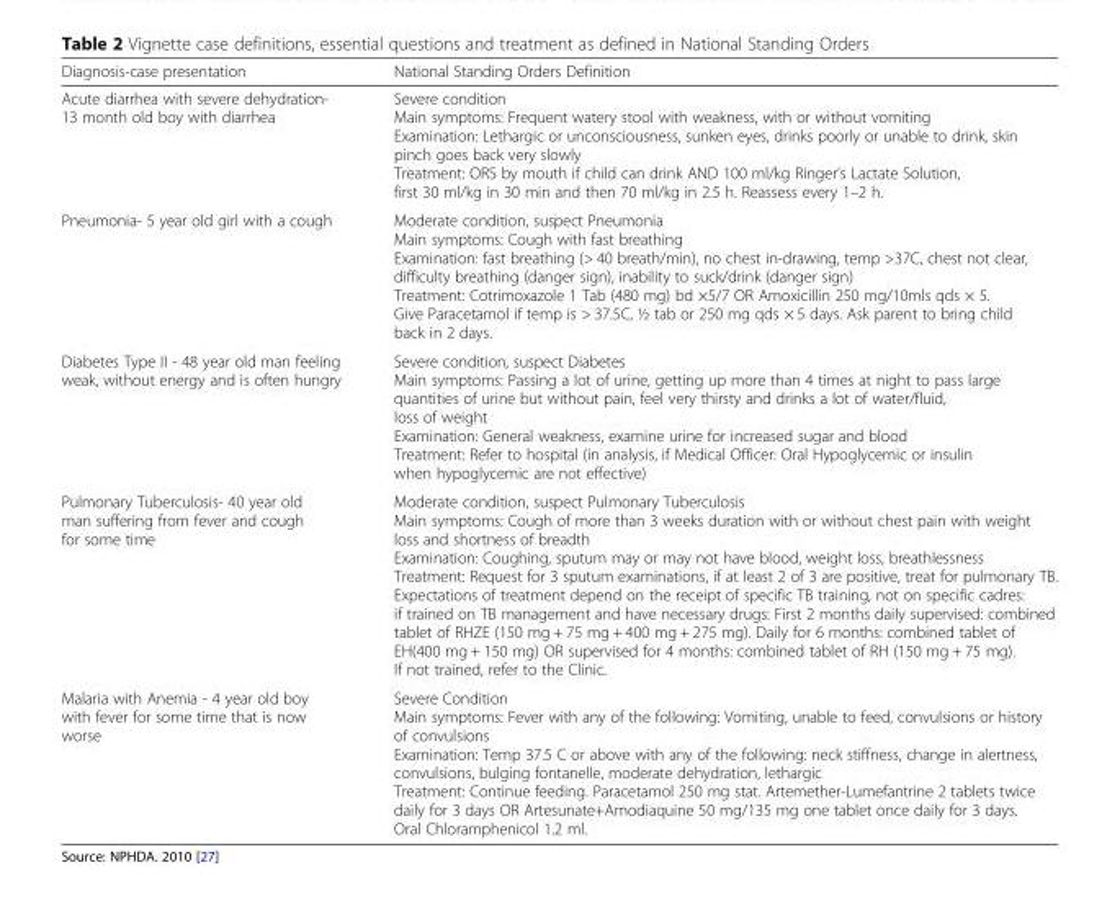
<table><thead><tr><td>Diagnosis-case presentation</td><td>National Standing Orders Definition</td></tr></thead><tbody><tr><td>Acute diarrhea with severe dehydration- 13 month old boy with diarrhea</td><td>Severe condition Main symptoms: Frequent watery stool with weakness, with or without vomiting Examination: Lethargic or unconsciousness, sunken eyes, drinks poorly or unable to drink, skin pinch goes back very slowly Treatment: ORS by mouth if child can drink AND 100 ml/kg Ringer’s Lactate Solution, first 30 ml/kg in 30 min and then 70 ml/kg in 2.5 h. Reassess every 1–2 h.</td></tr><tr><td>Pneumonia- 5 year old girl with a cough</td><td>Moderate condition, suspect Pneumonia Main symptoms: Cough with fast breathing Examination: fast breathing (&gt; 40 breath/min), no chest in-drawing, temp &gt;37C, chest not clear, difficulty breathing (danger sign), inability to suck/drink (danger sign) Treatment: Cotrimoxazole 1 Tab (480 mg) bd ×5/7 OR Amoxicillin 250 mg/10mls qds × 5. Give Paracetamol if temp is &gt; 37.5C, ½ tab or 250 mg qds × 5 days. Ask parent to bring child back in 2 days.</td></tr><tr><td>Diabetes Type II - 48 year old man feeling weak, without energy and is often hungry</td><td>Severe condition, suspect Diabetes Main symptoms: Passing a lot of urine, getting up more than 4 times at night to pass large quantities of urine but without pain, feel very thirsty and drinks a lot of water/fluid, loss of weight Examination: General weakness, examine urine for increased sugar and blood Treatment: Refer to hospital (in analysis, if Medical Officer: Oral Hypoglycemic or insulin when hypoglycemic are not effective)</td></tr><tr><td>Pulmonary Tuberculosis- 40 year old man suffering from fever and cough for some time</td><td>Moderate condition, suspect Pulmonary Tuberculosis Main symptoms: Cough of more than 3 weeks duration with or without chest pain with weight loss and shortness of breadth Examination: Coughing, sputum may or may not have blood, weight loss, breathlessness Treatment: Request for 3 sputum examinations, if at least 2 of 3 are positive, treat for pulmonary TB. Expectations of treatment depend on the receipt of specific TB training, not on specific cadres: if trained on TB management and have necessary drugs: First 2 months daily supervised: combined tablet of RHZE (150 mg + 75 mg + 400 mg + 275 mg). Daily for 6 months: combined tablet of EH(400 mg + 150 mg) OR supervised for 4 months: combined tablet of RH (150 mg + 75 mg). If not trained, refer to the Clinic.</td></tr><tr><td>Malaria with Anemia - 4 year old boy with fever for some time that is now worse</td><td>Severe Condition Main symptoms: Fever with any of the following: Vomiting, unable to feed, convulsions or history of convulsions Examination: Temp 37.5 C or above with any of the following: neck stiffness, change in alertness, convulsions, bulging fontanelle, moderate dehydration, lethargic Treatment: Continue feeding. Paracetamol 250 mg stat. Artemether-Lumefantrine 2 tablets twice daily for 3 days OR Artesunate+Amodiaquine 50 mg/135 mg one tablet once daily for 3 days. Oral Chloramphenicol 1.2 ml.</td></tr></tbody></table>